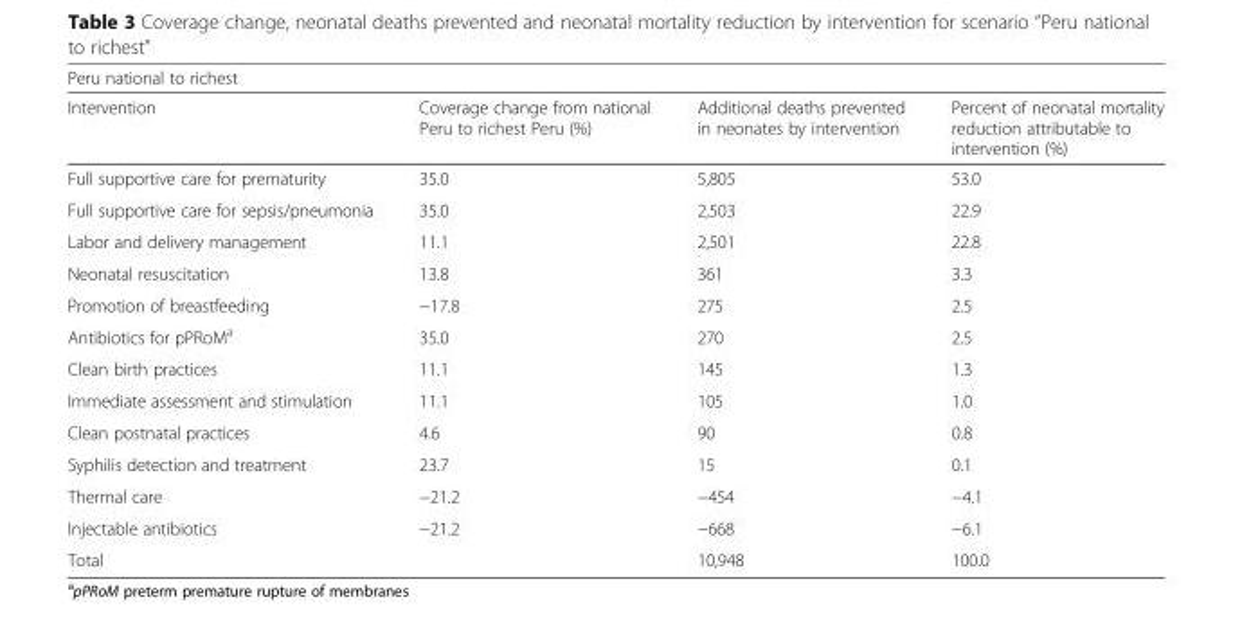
<table><thead><tr><td colspan="4">Peru national to richest</td></tr><tr><td>Intervention</td><td>Coverage change from national Peru to richest Peru (%)</td><td>Additional deaths prevented in neonates by intervention</td><td>Percent of neonatal mortality reduction attributable to intervention (%)</td></tr></thead><tbody><tr><td>Full supportive care for prematurity</td><td>35.0</td><td>5,805</td><td>53.0</td></tr><tr><td>Full supportive care for sepsis/pneumonia</td><td>35.0</td><td>2,503</td><td>22.9</td></tr><tr><td>Labor and delivery management</td><td>11.1</td><td>2,501</td><td>22.8</td></tr><tr><td>Neonatal resuscitation</td><td>13.8</td><td>361</td><td>3.3</td></tr><tr><td>Promotion of breastfeeding</td><td>−17.8</td><td>275</td><td>2.5</td></tr><tr><td>Antibiotics for pPRoM<sup>a</sup></td><td>35.0</td><td>270</td><td>2.5</td></tr><tr><td>Clean birth practices</td><td>11.1</td><td>145</td><td>1.3</td></tr><tr><td>Immediate assessment and stimulation</td><td>11.1</td><td>105</td><td>1.0</td></tr><tr><td>Clean postnatal practices</td><td>4.6</td><td>90</td><td>0.8</td></tr><tr><td>Syphilis detection and treatment</td><td>23.7</td><td>15</td><td>0.1</td></tr><tr><td>Thermal care</td><td>−21.2</td><td>−454</td><td>−4.1</td></tr><tr><td>Injectable antibiotics</td><td>−21.2</td><td>−668</td><td>−6.1</td></tr><tr><td>Total</td><td></td><td>10,948</td><td>100.0</td></tr></tbody></table>